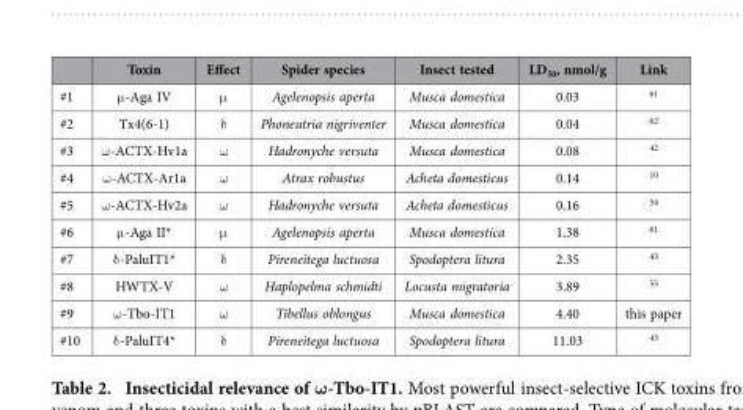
<table><thead><tr><td></td><td>Toxin</td><td>Effect</td><td>Spider species</td><td>Insect tested</td><td>LD<sub>50</sub>, nmol/g</td><td>Link</td></tr></thead><tbody><tr><td>#1</td><td>μ -Aga IV</td><td>μ</td><td>Agelenopsis aperta</td><td>Musca domestica</td><td>0.03</td><td>61</td></tr><tr><td>#2</td><td>Tx4(6-1)</td><td>δ</td><td>Phoneutria nigriventer</td><td>Musca domestica</td><td>0.04</td><td>62</td></tr><tr><td>#3</td><td>ω -ACTX-Hv1a</td><td>ω</td><td>Hadronyche versuta</td><td>Musca domestica</td><td>0.08</td><td>42</td></tr><tr><td>#4</td><td>ω -ACTX-Ar1a</td><td>ω</td><td>Atrax robustus</td><td>Acheta domesticus</td><td>0.14</td><td>10</td></tr><tr><td>#5</td><td>ω -ACTX-Hv2a</td><td>ω</td><td>Hadronyche versuta</td><td>Acheta domesticus</td><td>0.16</td><td>54</td></tr><tr><td>#6</td><td>μ -Aga II*</td><td>μ</td><td>Agelenopsis aperta</td><td>Musca domestica</td><td>1.38</td><td>61</td></tr><tr><td>#7</td><td>δ -PaluIT1*</td><td>δ</td><td>Pireneitega luctuosa</td><td>Spodoptera litura</td><td>2.35</td><td>43</td></tr><tr><td>#8</td><td>HWTX-V</td><td>ω</td><td>Haplopelma schmidti</td><td>Locusta migratoria</td><td>3.89</td><td>55</td></tr><tr><td>#9</td><td>ω -Tbo-IT1</td><td>ω</td><td>Tibellus oblongus</td><td>Musca domestica</td><td>4.40</td><td>this paper</td></tr><tr><td>#10</td><td>δ -PaluIT4*</td><td>δ</td><td>Pireneitega luctuosa</td><td>Spodoptera litura</td><td>11.03</td><td>43</td></tr></tbody></table>